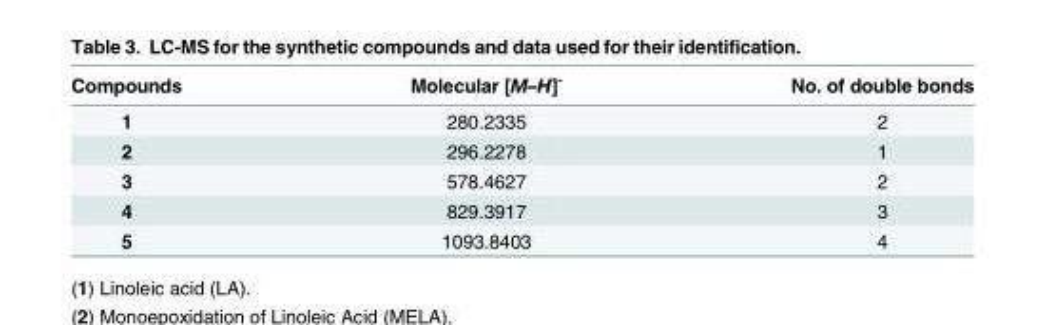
<table><thead><tr><td>Compounds</td><td>Molecular [M–H]<sup>-</sup></td><td>No. of double bonds</td></tr></thead><tbody><tr><td>1</td><td>280.2335</td><td>2</td></tr><tr><td>2</td><td>296.2278</td><td>1</td></tr><tr><td>3</td><td>578.4627</td><td>2</td></tr><tr><td>4</td><td>829.3917</td><td>3</td></tr><tr><td>5</td><td>1093.8403</td><td>4</td></tr></tbody></table>